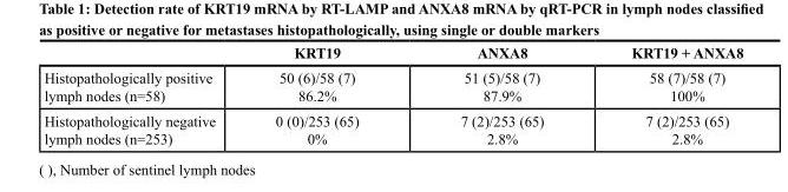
<table><thead><tr><td></td><td>KRT19</td><td>ANXA8</td><td>KRT19 + ANXA8</td></tr></thead><tbody><tr><td>Histopathologically positive lymph nodes (n=58)</td><td>50 (6)/58 (7) 86.2%</td><td>51 (5)/58 (7) 87.9%</td><td>58 (7)/58 (7) 100%</td></tr><tr><td>Histopathologically negative lymph nodes (n=253)</td><td>0 (0)/253 (65) 0%</td><td>7 (2)/253 (65) 2.8%</td><td>7 (2)/253 (65) 2.8%</td></tr></tbody></table>